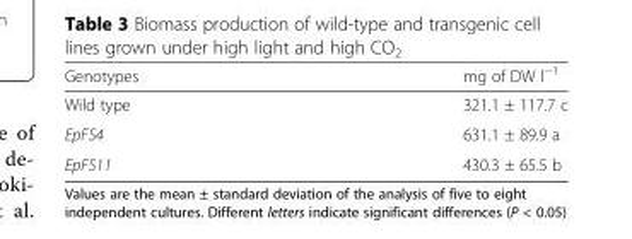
<table><thead><tr><td>Genotypes</td><td>mg of DW l<sup>−1</sup></td></tr></thead><tbody><tr><td>Wild type</td><td>321.1 ± 117.7 c</td></tr><tr><td>EpFS4</td><td>631.1 ± 89.9 a</td></tr><tr><td>EpFS11</td><td>430.3 ± 65.5 b</td></tr></tbody></table>